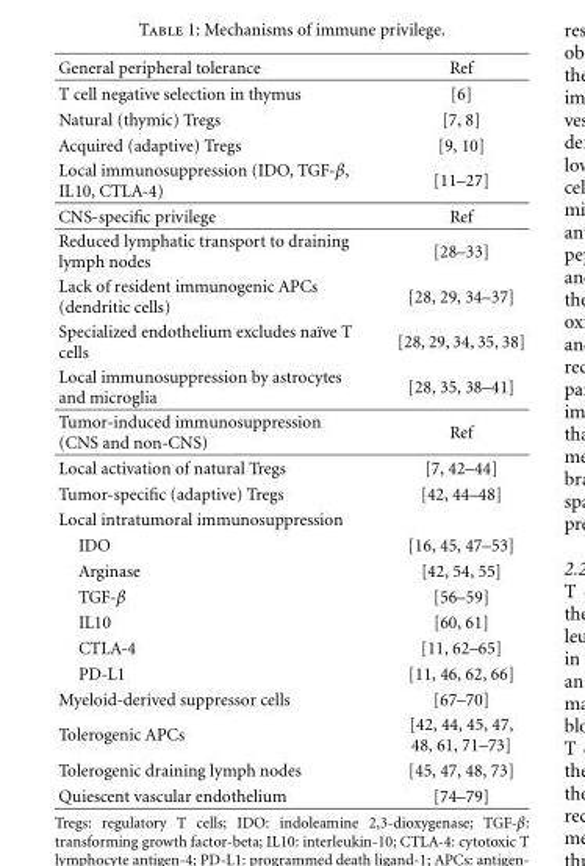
<table><thead><tr><td>General peripheral tolerance</td><td>Ref</td></tr></thead><tbody><tr><td>T cell negative selection in thymus</td><td>[6]</td></tr><tr><td>Natural (thymic) Tregs</td><td>[7, 8]</td></tr><tr><td>Acquired (adaptive) Tregs</td><td>[9, 10]</td></tr><tr><td>Local immunosuppression (IDO, TGF-β, IL10, CTLA-4)</td><td>[11–27]</td></tr><tr><td>CNS-specific privilege</td><td>Ref</td></tr><tr><td>Reduced lymphatic transport to draining lymph nodes</td><td>[28–33]</td></tr><tr><td>Lack of resident immunogenic APCs (dendritic cells)</td><td>[28, 29, 34–37]</td></tr><tr><td>Specialized endothelium excludes na¨ıve T cells</td><td>[28, 29, 34, 35, 38]</td></tr><tr><td>Local immunosuppression by astrocytes and microglia</td><td>[28, 35, 38–41]</td></tr><tr><td>Tumor-induced immunosuppression (CNS and non-CNS)</td><td>Ref</td></tr><tr><td>Local activation of natural Tregs</td><td>[7, 42–44]</td></tr><tr><td>Tumor-specific (adaptive) Tregs</td><td>[42, 44–48]</td></tr><tr><td colspan="2">Local intratumoral immunosuppression</td></tr><tr><td>IDO</td><td>[16, 45, 47–53]</td></tr><tr><td>Arginase</td><td>[42, 54, 55]</td></tr><tr><td>TGF-β</td><td>[56–59]</td></tr><tr><td>IL10</td><td>[60, 61]</td></tr><tr><td>CTLA-4</td><td>[11, 62–65]</td></tr><tr><td>PD-L1</td><td>[11, 46, 62, 66]</td></tr><tr><td>Myeloid-derived suppressor cells</td><td>[67–70]</td></tr><tr><td>Tolerogenic APCs</td><td>[42, 44, 45, 47, 48, 61, 71–73]</td></tr><tr><td>Tolerogenic draining lymph nodes</td><td>[45, 47, 48, 73]</td></tr><tr><td>Quiescent vascular endothelium</td><td>[74–79]</td></tr></tbody></table>